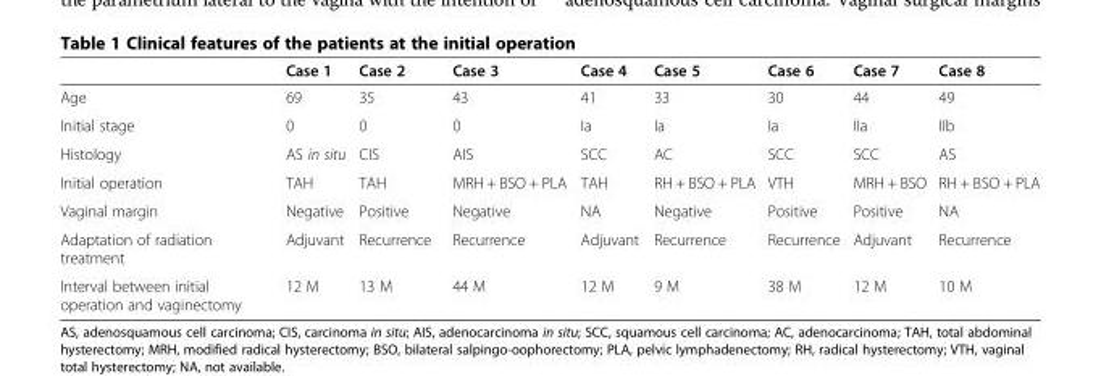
<table><thead><tr><td></td><td>Case 1</td><td>Case 2</td><td>Case 3</td><td>Case 4</td><td>Case 5</td><td>Case 6</td><td>Case 7</td><td>Case 8</td></tr></thead><tbody><tr><td>Age</td><td>69</td><td>35</td><td>43</td><td>41</td><td>33</td><td>30</td><td>44</td><td>49</td></tr><tr><td>Initial stage</td><td>0</td><td>0</td><td>0</td><td>Ia</td><td>Ia</td><td>Ia</td><td>IIa</td><td>IIb</td></tr><tr><td>Histology</td><td>AS in situ</td><td>CIS</td><td>AIS</td><td>SCC</td><td>AC</td><td>SCC</td><td>SCC</td><td>AS</td></tr><tr><td>Initial operation</td><td>TAH</td><td>TAH</td><td>MRH + BSO + PLA</td><td>TAH</td><td>RH + BSO + PLA</td><td>VTH</td><td>MRH + BSO</td><td>RH + BSO + PLA</td></tr><tr><td>Vaginal margin</td><td>Negative</td><td>Positive</td><td>Negative</td><td>NA</td><td>Negative</td><td>Positive</td><td>Positive</td><td>NA</td></tr><tr><td>Adaptation of radiation treatment</td><td>Adjuvant</td><td>Recurrence</td><td>Recurrence</td><td>Adjuvant</td><td>Recurrence</td><td>Recurrence</td><td>Adjuvant</td><td>Recurrence</td></tr><tr><td>Interval between initial operation and vaginectomy</td><td>12 M</td><td>13 M</td><td>44 M</td><td>12 M</td><td>9 M</td><td>38 M</td><td>12 M</td><td>10 M</td></tr></tbody></table>